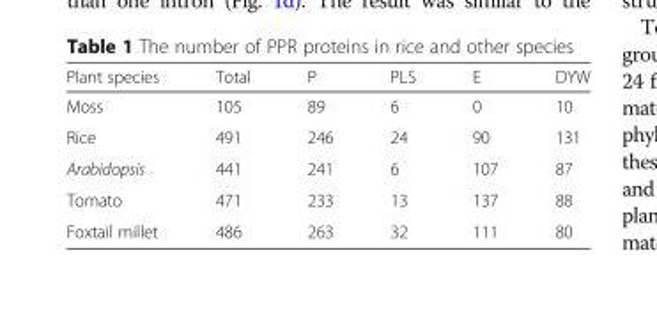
<table><thead><tr><td>Plant species</td><td>Total</td><td>P</td><td>PLS</td><td>E</td><td>DYW</td></tr></thead><tbody><tr><td>Moss</td><td>105</td><td>89</td><td>6</td><td>0</td><td>10</td></tr><tr><td>Rice</td><td>491</td><td>246</td><td>24</td><td>90</td><td>131</td></tr><tr><td>Arabidopsis</td><td>441</td><td>241</td><td>6</td><td>107</td><td>87</td></tr><tr><td>Tomato</td><td>471</td><td>233</td><td>13</td><td>137</td><td>88</td></tr><tr><td>Foxtail millet</td><td>486</td><td>263</td><td>32</td><td>111</td><td>80</td></tr></tbody></table>